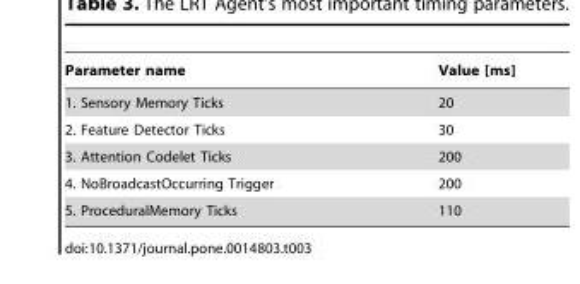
<table><thead><tr><td>Parameter name</td><td>Value [ms]</td></tr></thead><tbody><tr><td>1. Sensory Memory Ticks</td><td>20</td></tr><tr><td>2. Feature Detector Ticks</td><td>30</td></tr><tr><td>3. Attention Codelet Ticks</td><td>200</td></tr><tr><td>4. NoBroadcastOccurring Trigger</td><td>200</td></tr><tr><td>5. ProceduralMemory Ticks</td><td>110</td></tr></tbody></table>